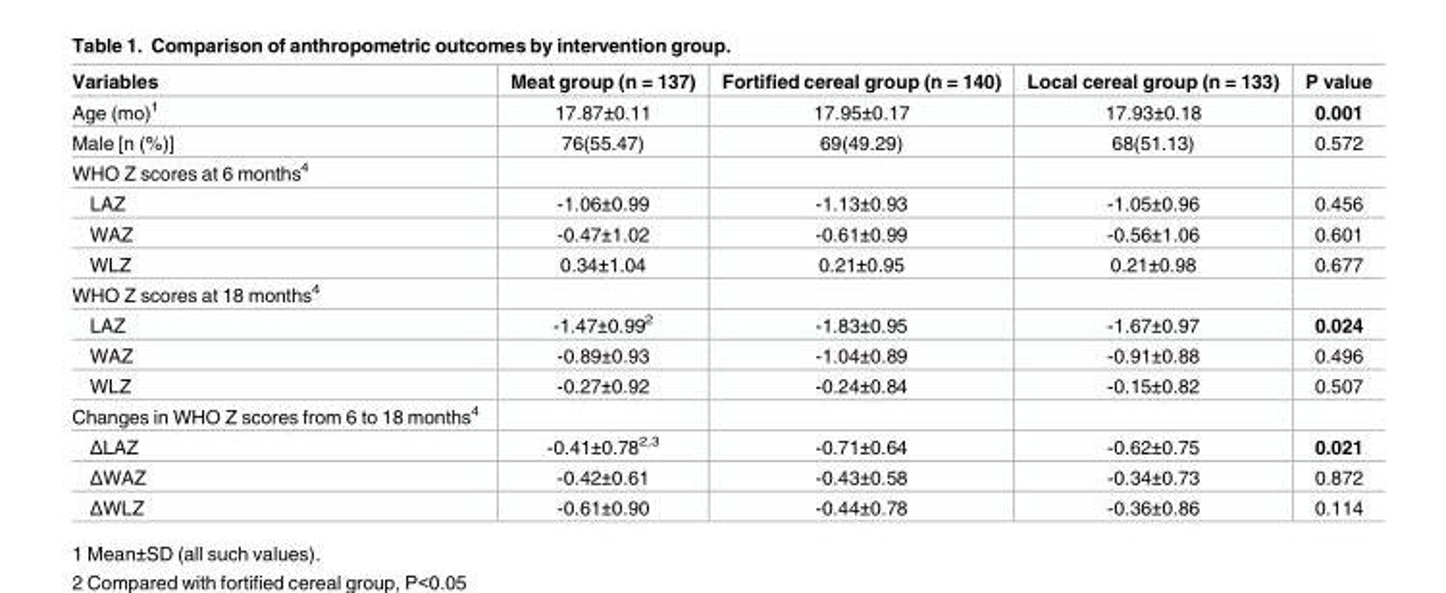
<table><thead><tr><td>Variables</td><td>Meat group (n = 137)</td><td>Fortified cereal group (n = 140)</td><td>Local cereal group (n = 133)</td><td>P value</td></tr></thead><tbody><tr><td>Age (mo)<sup>1</sup></td><td>17.87±0.11</td><td>17.95±0.17</td><td>17.93±0.18</td><td>0.001</td></tr><tr><td>Male [n (%)]</td><td>76(55.47)</td><td>69(49.29)</td><td>68(51.13)</td><td>0.572</td></tr><tr><td colspan="5">WHO Z scores at 6 months<sup>4</sup></td></tr><tr><td>LAZ</td><td>-1.06±0.99</td><td>-1.13±0.93</td><td>-1.05±0.96</td><td>0.456</td></tr><tr><td>WAZ</td><td>-0.47±1.02</td><td>-0.61±0.99</td><td>-0.56±1.06</td><td>0.601</td></tr><tr><td>WLZ</td><td>0.34±1.04</td><td>0.21±0.95</td><td>0.21±0.98</td><td>0.677</td></tr><tr><td colspan="5">WHO Z scores at 18 months<sup>4</sup></td></tr><tr><td>LAZ</td><td>-1.47±0.99<sup>2</sup></td><td>-1.83±0.95</td><td>-1.67±0.97</td><td>0.024</td></tr><tr><td>WAZ</td><td>-0.89±0.93</td><td>-1.04±0.89</td><td>-0.91±0.88</td><td>0.496</td></tr><tr><td>WLZ</td><td>-0.27±0.92</td><td>-0.24±0.84</td><td>-0.15±0.82</td><td>0.507</td></tr><tr><td colspan="5">Changes in WHO Z scores from 6 to 18 months<sup>4</sup></td></tr><tr><td>ΔLAZ</td><td>-0.41±0.78<sup>2,3</sup></td><td>-0.71±0.64</td><td>-0.62±0.75</td><td>0.021</td></tr><tr><td>ΔWAZ</td><td>-0.42±0.61</td><td>-0.43±0.58</td><td>-0.34±0.73</td><td>0.872</td></tr><tr><td>ΔWLZ</td><td>-0.61±0.90</td><td>-0.44±0.78</td><td>-0.36±0.86</td><td>0.114</td></tr></tbody></table>